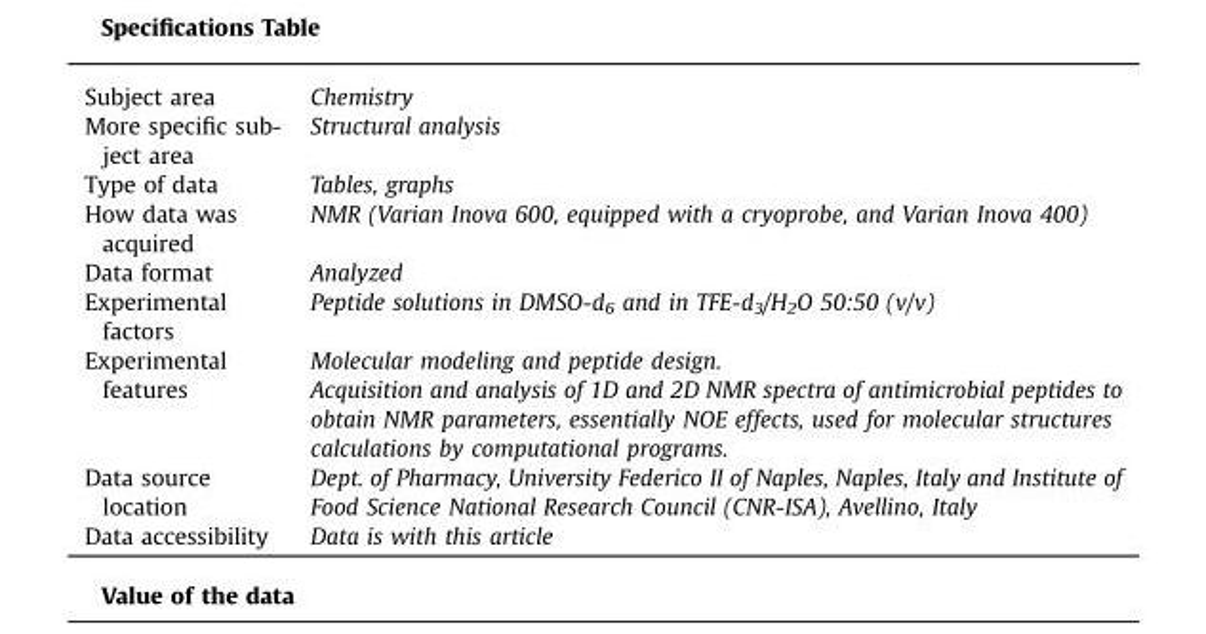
<table><tbody><tr><td>Subject area</td><td>Chemistry</td></tr><tr><td>More specific sub- ject area</td><td>Structural analysis</td></tr><tr><td>Type of data</td><td>Tables, graphs</td></tr><tr><td>How data was acquired</td><td>NMR (Varian Inova 600, equipped with a cryoprobe, and Varian Inova 400)</td></tr><tr><td>Data format</td><td>Analyzed</td></tr><tr><td>Experimental factors</td><td>Peptide solutions in DMSO-d<sub>6</sub> and in TFE-d<sub>3</sub>/H<sub>2</sub>O 50:50 (v/v)</td></tr><tr><td rowspan="2">Experimental features</td><td>Molecular modeling and peptide design.</td></tr><tr><td>Acquisition and analysis of 1D and 2D NMR spectra of antimicrobial peptides to obtain NMR parameters, essentially NOE effects, used for molecular structures calculations by computational programs.</td></tr><tr><td>Data source location</td><td>Dept. of Pharmacy, University Federico II of Naples, Naples, Italy and Institute of Food Science National Research Council (CNR-ISA), Avellino, Italy</td></tr><tr><td>Data accessibility</td><td>Data is with this article</td></tr></tbody></table>